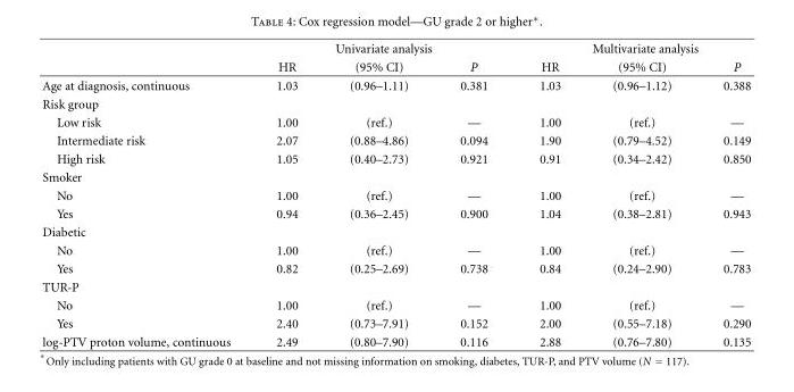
<table><thead><tr><td rowspan="2"></td><td colspan="3">Univariate analysis</td><td colspan="3">Multivariate analysis</td></tr><tr><td>HR</td><td>(95% CI)</td><td>P</td><td>HR</td><td>(95% CI)</td><td>P</td></tr></thead><tbody><tr><td>Age at diagnosis, continuous</td><td>1.03</td><td>(0.96–1.11)</td><td>0.381</td><td>1.03</td><td>(0.96–1.12)</td><td>0.388</td></tr><tr><td colspan="7">Risk group</td></tr><tr><td>Low risk</td><td>1.00</td><td>(ref.)</td><td>—</td><td>1.00</td><td>(ref.)</td><td>—</td></tr><tr><td>Intermediate risk</td><td>2.07</td><td>(0.88–4.86)</td><td>0.094</td><td>1.90</td><td>(0.79–4.52)</td><td>0.149</td></tr><tr><td>High risk</td><td>1.05</td><td>(0.40–2.73)</td><td>0.921</td><td>0.91</td><td>(0.34–2.42)</td><td>0.850</td></tr><tr><td colspan="7">Smoker</td></tr><tr><td>No</td><td>1.00</td><td>(ref.)</td><td>—</td><td>1.00</td><td>(ref.)</td><td>—</td></tr><tr><td>Yes</td><td>0.94</td><td>(0.36–2.45)</td><td>0.900</td><td>1.04</td><td>(0.38–2.81)</td><td>0.943</td></tr><tr><td colspan="7">Diabetic</td></tr><tr><td>No</td><td>1.00</td><td>(ref.)</td><td>—</td><td>1.00</td><td>(ref.)</td><td>—</td></tr><tr><td>Yes</td><td>0.82</td><td>(0.25–2.69)</td><td>0.738</td><td>0.84</td><td>(0.24–2.90)</td><td>0.783</td></tr><tr><td colspan="7">TUR-P</td></tr><tr><td>No</td><td>1.00</td><td>(ref.)</td><td>—</td><td>1.00</td><td>(ref.)</td><td>—</td></tr><tr><td>Yes</td><td>2.40</td><td>(0.73–7.91)</td><td>0.152</td><td>2.00</td><td>(0.55–7.18)</td><td>0.290</td></tr><tr><td>log-PTV proton volume, continuous</td><td>2.49</td><td>(0.80–7.90)</td><td>0.116</td><td>2.88</td><td>(0.76–7.80)</td><td>0.135</td></tr></tbody></table>